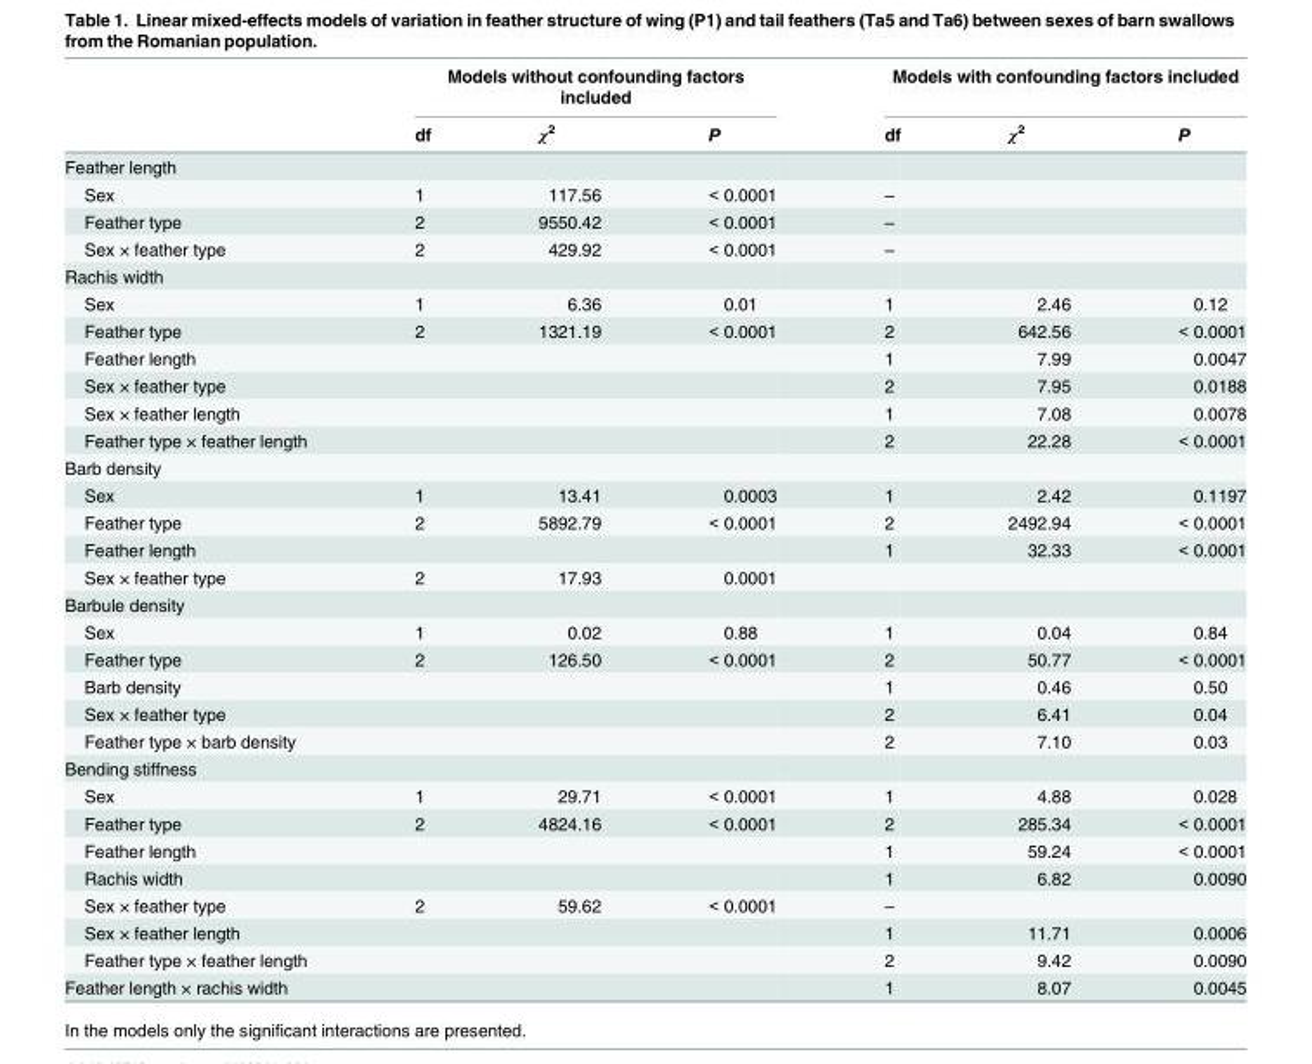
<table><thead><tr><td rowspan="2"></td><td colspan="3">Models without confounding factors included</td><td colspan="3">Models with confounding factors included</td></tr><tr><td>df</td><td>χ<sup>2</sup></td><td>P</td><td>df</td><td>χ<sup>2</sup></td><td>P</td></tr></thead><tbody><tr><td colspan="7">Feather length</td></tr><tr><td>Sex</td><td>1</td><td>117.56</td><td>&lt; 0.0001</td><td>–</td><td></td><td></td></tr><tr><td>Feather type</td><td>2</td><td>9550.42</td><td>&lt; 0.0001</td><td>–</td><td></td><td></td></tr><tr><td>Sex × feather type</td><td>2</td><td>429.92</td><td>&lt; 0.0001</td><td>–</td><td></td><td></td></tr><tr><td colspan="7">Rachis width</td></tr><tr><td>Sex</td><td>1</td><td>6.36</td><td>0.01</td><td>1</td><td>2.46</td><td>0.12</td></tr><tr><td>Feather type</td><td>2</td><td>1321.19</td><td>&lt; 0.0001</td><td>2</td><td>642.56</td><td>&lt; 0.0001</td></tr><tr><td>Feather length</td><td></td><td></td><td></td><td>1</td><td>7.99</td><td>0.0047</td></tr><tr><td>Sex × feather type</td><td></td><td></td><td></td><td>2</td><td>7.95</td><td>0.0188</td></tr><tr><td>Sex × feather length</td><td></td><td></td><td></td><td>1</td><td>7.08</td><td>0.0078</td></tr><tr><td>Feather type × feather length</td><td></td><td></td><td></td><td>2</td><td>22.28</td><td>&lt; 0.0001</td></tr><tr><td colspan="7">Barb density</td></tr><tr><td>Sex</td><td>1</td><td>13.41</td><td>0.0003</td><td>1</td><td>2.42</td><td>0.1197</td></tr><tr><td>Feather type</td><td>2</td><td>5892.79</td><td>&lt; 0.0001</td><td>2</td><td>2492.94</td><td>&lt; 0.0001</td></tr><tr><td>Feather length</td><td></td><td></td><td></td><td>1</td><td>32.33</td><td>&lt; 0.0001</td></tr><tr><td>Sex × feather type</td><td>2</td><td>17.93</td><td>0.0001</td><td></td><td></td><td></td></tr><tr><td colspan="7">Barbule density</td></tr><tr><td>Sex</td><td>1</td><td>0.02</td><td>0.88</td><td>1</td><td>0.04</td><td>0.84</td></tr><tr><td>Feather type</td><td>2</td><td>126.50</td><td>&lt; 0.0001</td><td>2</td><td>50.77</td><td>&lt; 0.0001</td></tr><tr><td>Barb density</td><td></td><td></td><td></td><td>1</td><td>0.46</td><td>0.50</td></tr><tr><td>Sex × feather type</td><td></td><td></td><td></td><td>2</td><td>6.41</td><td>0.04</td></tr><tr><td>Feather type × barb density</td><td></td><td></td><td></td><td>2</td><td>7.10</td><td>0.03</td></tr><tr><td colspan="7">Bending stiffness</td></tr><tr><td>Sex</td><td>1</td><td>29.71</td><td>&lt; 0.0001</td><td>1</td><td>4.88</td><td>0.028</td></tr><tr><td>Feather type</td><td>2</td><td>4824.16</td><td>&lt; 0.0001</td><td>2</td><td>285.34</td><td>&lt; 0.0001</td></tr><tr><td>Feather length</td><td></td><td></td><td></td><td>1</td><td>59.24</td><td>&lt; 0.0001</td></tr><tr><td>Rachis width</td><td></td><td></td><td></td><td>1</td><td>6.82</td><td>0.0090</td></tr><tr><td>Sex × feather type</td><td>2</td><td>59.62</td><td>&lt; 0.0001</td><td>–</td><td></td><td></td></tr><tr><td>Sex × feather length</td><td></td><td></td><td></td><td>1</td><td>11.71</td><td>0.0006</td></tr><tr><td>Feather type × feather length</td><td></td><td></td><td></td><td>2</td><td>9.42</td><td>0.0090</td></tr><tr><td>Feather length × rachis width</td><td></td><td></td><td></td><td>1</td><td>8.07</td><td>0.0045</td></tr></tbody></table>